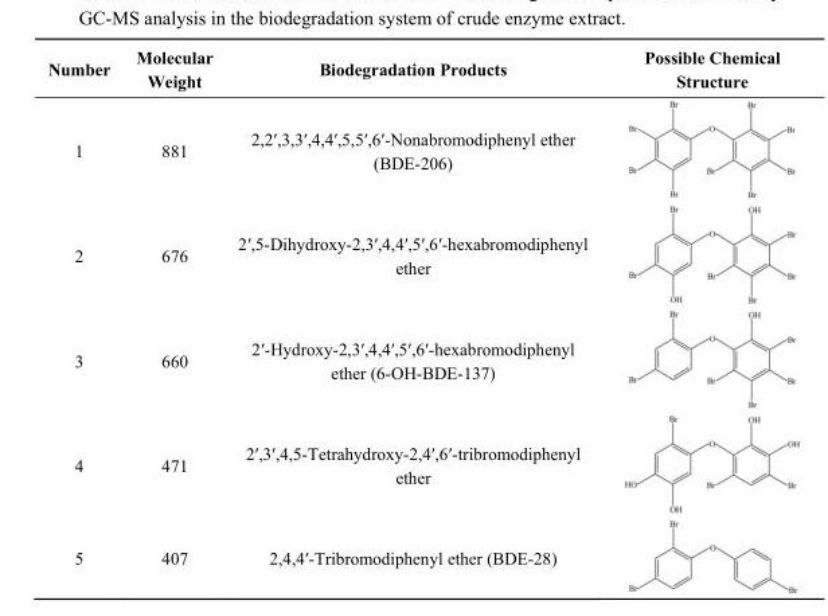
<table><thead><tr><td>Number</td><td>Molecular Weight</td><td>Biodegradation Products</td><td>Possible Chemical Structure</td></tr></thead><tbody><tr><td>1</td><td>881</td><td>2,2′,3,3′,4,4′,5,5′,6′-Nonabromodiphenyl ether (BDE-206)</td><td></td></tr><tr><td>2</td><td>676</td><td>2′,5-Dihydroxy-2,3′,4,4′,5′,6′-hexabromodiphenyl ether</td><td></td></tr><tr><td>3</td><td>660</td><td>2′-Hydroxy-2,3′,4,4′,5′,6′-hexabromodiphenyl ether (6-OH-BDE-137)</td><td></td></tr><tr><td>4</td><td>471</td><td>2′,3′,4,5-Tetrahydroxy-2,4′,6′-tribromodiphenyl ether</td><td></td></tr><tr><td>5</td><td>407</td><td>2,4,4′-Tribromodiphenyl ether (BDE-28)</td><td></td></tr></tbody></table>